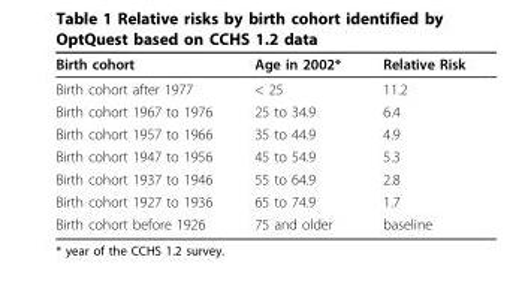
<table><thead><tr><td>Birth cohort</td><td>Age in 2002*</td><td>Relative Risk</td></tr></thead><tbody><tr><td>Birth cohort after 1977</td><td>&lt; 25</td><td>11.2</td></tr><tr><td>Birth cohort 1967 to 1976</td><td>25 to 34.9</td><td>6.4</td></tr><tr><td>Birth cohort 1957 to 1966</td><td>35 to 44.9</td><td>4.9</td></tr><tr><td>Birth cohort 1947 to 1956</td><td>45 to 54.9</td><td>5.3</td></tr><tr><td>Birth cohort 1937 to 1946</td><td>55 to 64.9</td><td>2.8</td></tr><tr><td>Birth cohort 1927 to 1936</td><td>65 to 74.9</td><td>1.7</td></tr><tr><td>Birth cohort before 1926</td><td>75 and older</td><td>baseline</td></tr></tbody></table>